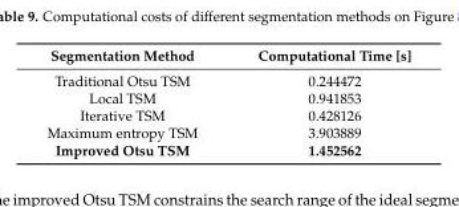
<table><thead><tr><td>Segmentation Method</td><td>Computational Time [s]</td></tr></thead><tbody><tr><td>Traditional Otsu TSM</td><td>0.244472</td></tr><tr><td>Local TSM</td><td>0.941853</td></tr><tr><td>Iterative TSM</td><td>0.428126</td></tr><tr><td>Maximum entropy TSM</td><td>3.903889</td></tr><tr><td>Improved Otsu TSM</td><td>1.452562</td></tr></tbody></table>